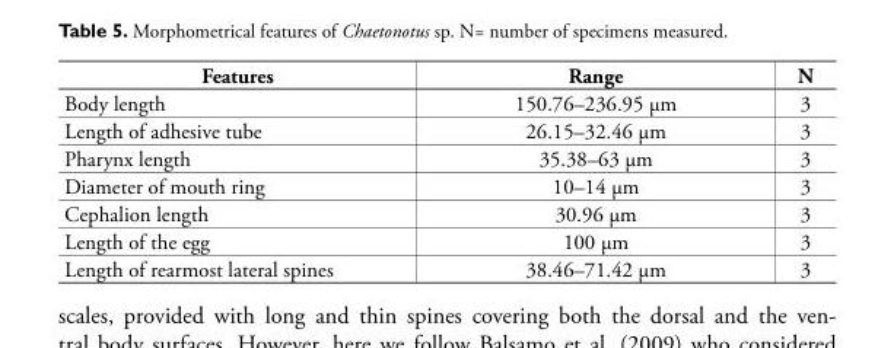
<table><thead><tr><td>Features</td><td>Range</td><td>N</td></tr></thead><tbody><tr><td>Body length</td><td>150.76–236.95 μm</td><td>3</td></tr><tr><td>Length of adhesive tube</td><td>26.15–32.46 μm</td><td>3</td></tr><tr><td>Pharynx length</td><td>35.38–63 μm</td><td>3</td></tr><tr><td>Diameter of mouth ring</td><td>10–14 μm</td><td>3</td></tr><tr><td>Cephalion length</td><td>30.96 μm</td><td>3</td></tr><tr><td>Length of the egg</td><td>100 μm</td><td>3</td></tr><tr><td>Length of rearmost lateral spines</td><td>38.46–71.42 μm</td><td>3</td></tr></tbody></table>